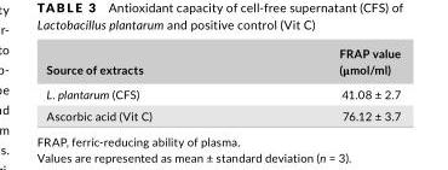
<table><thead><tr><td>Source of extracts</td><td>FRAP value (μmol/ml)</td></tr></thead><tbody><tr><td>L. plantarum (CFS)</td><td>41.08 ± 2.7</td></tr><tr><td>Ascorbic acid (Vit C)</td><td>76.12 ± 3.7</td></tr></tbody></table>